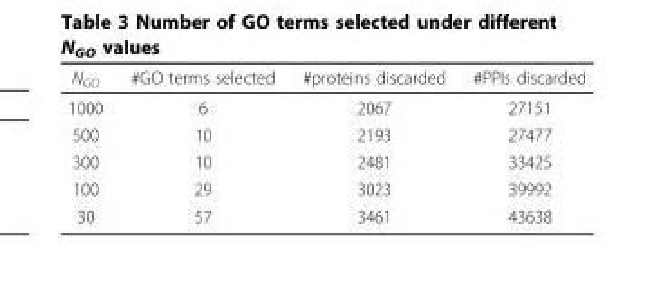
<table><thead><tr><td>N<sub>GO</sub></td><td>#GO terms selected</td><td>#proteins discarded</td><td>#PPIs discarded</td></tr></thead><tbody><tr><td>1000</td><td>6</td><td>2067</td><td>27151</td></tr><tr><td>500</td><td>10</td><td>2193</td><td>27477</td></tr><tr><td>300</td><td>10</td><td>2481</td><td>33425</td></tr><tr><td>100</td><td>29</td><td>3023</td><td>39992</td></tr><tr><td>30</td><td>57</td><td>3461</td><td>43638</td></tr></tbody></table>